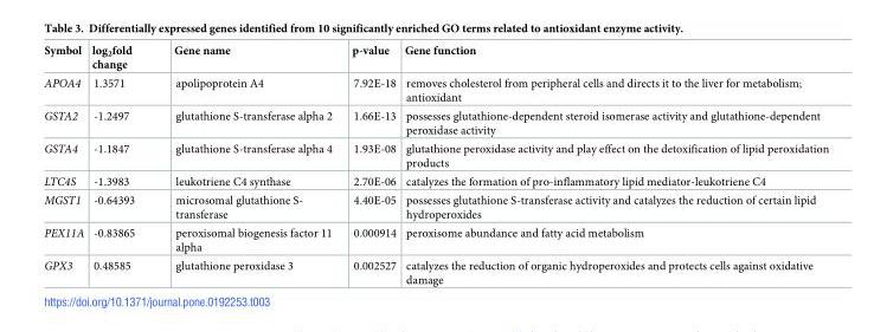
<table><thead><tr><td>Symbol</td><td>log<sub>2</sub>fold change</td><td>Gene name</td><td>p-value</td><td>Gene function</td></tr></thead><tbody><tr><td>APOA4</td><td>1.3571</td><td>apolipoprotein A4</td><td>7.92E-18</td><td>removes cholesterol from peripheral cells and directs it to the liver for metabolism; antioxidant</td></tr><tr><td>GSTA2</td><td>-1.2497</td><td>glutathione S-transferase alpha 2</td><td>1.66E-13</td><td>possesses glutathione-dependent steroid isomerase activity and glutathione-dependent peroxidase activity</td></tr><tr><td>GSTA4</td><td>-1.1847</td><td>glutathione S-transferase alpha 4</td><td>1.93E-08</td><td>glutathione peroxidase activity and play effect on the detoxification of lipid peroxidation products</td></tr><tr><td>LTC4S</td><td>-1.3983</td><td>leukotriene C4 synthase</td><td>2.70E-06</td><td>catalyzes the formation of pro-inflammatory lipid mediator-leukotriene C4</td></tr><tr><td>MGST1</td><td>-0.64393</td><td>microsomal glutathione S- transferase</td><td>4.40E-05</td><td>possesses glutathione S-transferase activity and catalyzes the reduction of certain lipid hydroperoxides</td></tr><tr><td>PEX11A</td><td>-0.83865</td><td>peroxisomal biogenesis factor 11 alpha</td><td>0.000914</td><td>peroxisome abundance and fatty acid metabolism</td></tr><tr><td>GPX3</td><td>0.48585</td><td>glutathione peroxidase 3</td><td>0.002527</td><td>catalyzes the reduction of organic hydroperoxides and protects cells against oxidative damage</td></tr></tbody></table>